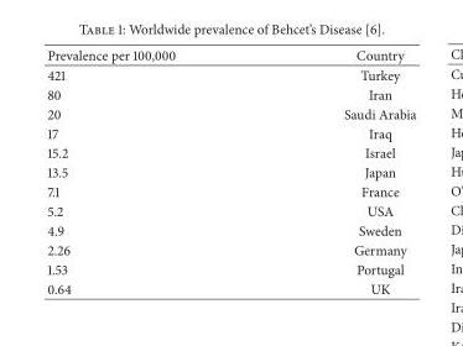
<table><thead><tr><td>Prevalence per 100,000</td><td>Country</td></tr></thead><tbody><tr><td>421</td><td>Turkey</td></tr><tr><td>80</td><td>Iran</td></tr><tr><td>20</td><td>Saudi Arabia</td></tr><tr><td>17</td><td>Iraq</td></tr><tr><td>15.2</td><td>Israel</td></tr><tr><td>13.5</td><td>Japan</td></tr><tr><td>7.1</td><td>France</td></tr><tr><td>5.2</td><td>USA</td></tr><tr><td>4.9</td><td>Sweden</td></tr><tr><td>2.26</td><td>Germany</td></tr><tr><td>1.53</td><td>Portugal</td></tr><tr><td>0.64</td><td>UK</td></tr></tbody></table>